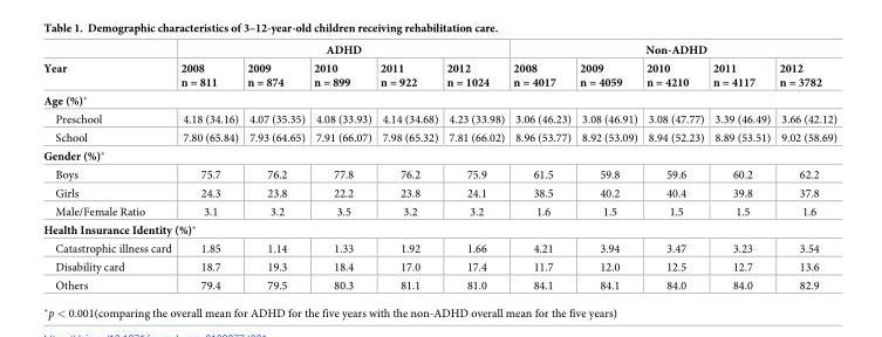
<table><thead><tr><td rowspan="2">Year</td><td colspan="5">ADHD</td><td colspan="5">Non-ADHD</td></tr><tr><td>2008 n = 811</td><td>2009 n = 874</td><td>2010 n = 899</td><td>2011 n = 922</td><td>2012 n = 1024</td><td>2008 n = 4017</td><td>2009 n = 4059</td><td>2010 n = 4210</td><td>2011 n = 4117</td><td>2012 n = 3782</td></tr></thead><tbody><tr><td colspan="11">Age (%)*</td></tr><tr><td>Preschool</td><td>4.18 (34.16)</td><td>4.07 (35.35)</td><td>4.08 (33.93)</td><td>4.14 (34.68)</td><td>4.23 (33.98)</td><td>3.06 (46.23)</td><td>3.08 (46.91)</td><td>3.08 (47.77)</td><td>3.39 (46.49)</td><td>3.66 (42.12)</td></tr><tr><td>School</td><td>7.80 (65.84)</td><td>7.93 (64.65)</td><td>7.91 (66.07)</td><td>7.98 (65.32)</td><td>7.81 (66.02)</td><td>8.96 (53.77)</td><td>8.92 (53.09)</td><td>8.94 (52.23)</td><td>8.89 (53.51)</td><td>9.02 (58.69)</td></tr><tr><td colspan="11">Gender (%)*</td></tr><tr><td>Boys</td><td>75.7</td><td>76.2</td><td>77.8</td><td>76.2</td><td>75.9</td><td>61.5</td><td>59.8</td><td>59.6</td><td>60.2</td><td>62.2</td></tr><tr><td>Girls</td><td>24.3</td><td>23.8</td><td>22.2</td><td>23.8</td><td>24.1</td><td>38.5</td><td>40.2</td><td>40.4</td><td>39.8</td><td>37.8</td></tr><tr><td>Male/Female Ratio</td><td>3.1</td><td>3.2</td><td>3.5</td><td>3.2</td><td>3.2</td><td>1.6</td><td>1.5</td><td>1.5</td><td>1.5</td><td>1.6</td></tr><tr><td colspan="11">Health Insurance Identity (%)*</td></tr><tr><td>Catastrophic illness card</td><td>1.85</td><td>1.14</td><td>1.33</td><td>1.92</td><td>1.66</td><td>4.21</td><td>3.94</td><td>3.47</td><td>3.23</td><td>3.54</td></tr><tr><td>Disability card</td><td>18.7</td><td>19.3</td><td>18.4</td><td>17.0</td><td>17.4</td><td>11.7</td><td>12.0</td><td>12.5</td><td>12.7</td><td>13.6</td></tr><tr><td>Others</td><td>79.4</td><td>79.5</td><td>80.3</td><td>81.1</td><td>81.0</td><td>84.1</td><td>84.1</td><td>84.0</td><td>84.0</td><td>82.9</td></tr></tbody></table>